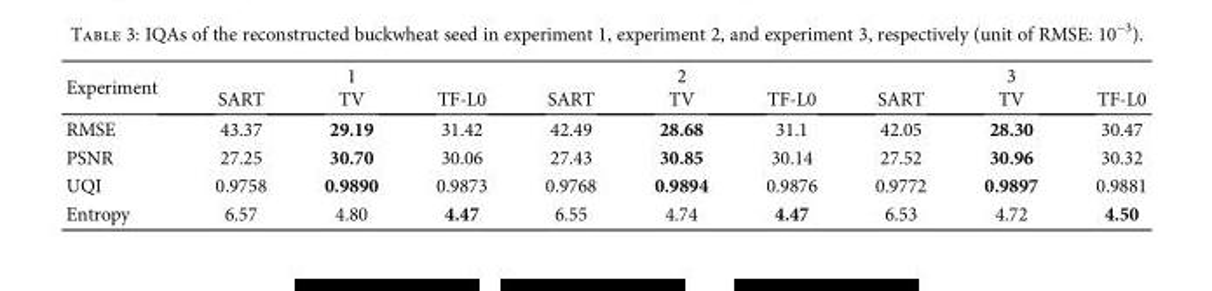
<table><thead><tr><td rowspan="2">Experiment</td><td colspan="3">1</td><td colspan="3">2</td><td colspan="3">3</td></tr><tr><td>SART</td><td>TV</td><td>TF-L0</td><td>SART</td><td>TV</td><td>TF-L0</td><td>SART</td><td>TV</td><td>TF-L0</td></tr></thead><tbody><tr><td>RMSE</td><td>43.37</td><td>29.19</td><td>31.42</td><td>42.49</td><td>28.68</td><td>31.1</td><td>42.05</td><td>28.30</td><td>30.47</td></tr><tr><td>PSNR</td><td>27.25</td><td>30.70</td><td>30.06</td><td>27.43</td><td>30.85</td><td>30.14</td><td>27.52</td><td>30.96</td><td>30.32</td></tr><tr><td>UQI</td><td>0.9758</td><td>0.9890</td><td>0.9873</td><td>0.9768</td><td>0.9894</td><td>0.9876</td><td>0.9772</td><td>0.9897</td><td>0.9881</td></tr><tr><td>Entropy</td><td>6.57</td><td>4.80</td><td>4.47</td><td>6.55</td><td>4.74</td><td>4.47</td><td>6.53</td><td>4.72</td><td>4.50</td></tr></tbody></table>